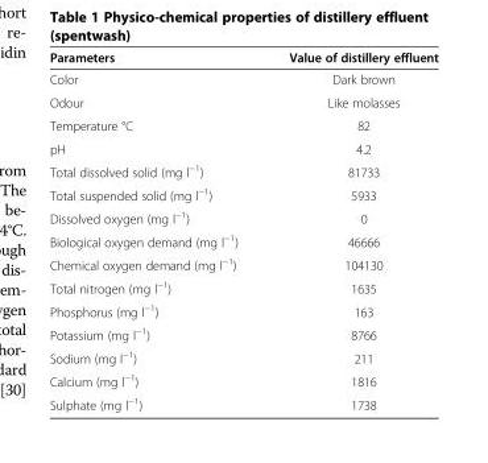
<table><thead><tr><td>Parameters</td><td>Value of distillery effluent</td></tr></thead><tbody><tr><td>Color</td><td>Dark brown</td></tr><tr><td>Odour</td><td>Like molasses</td></tr><tr><td>Temperature °C</td><td>82</td></tr><tr><td>pH</td><td>4.2</td></tr><tr><td>Total dissolved solid (mg l<sup>−1</sup>)</td><td>81733</td></tr><tr><td>Total suspended solid (mg l<sup>−1</sup>)</td><td>5933</td></tr><tr><td>Dissolved oxygen (mg l<sup>−1</sup>)</td><td>0</td></tr><tr><td>Biological oxygen demand (mg l<sup>−1</sup>)</td><td>46666</td></tr><tr><td>Chemical oxygen demand (mg l<sup>−1</sup>)</td><td>104130</td></tr><tr><td>Total nitrogen (mg l<sup>−1</sup>)</td><td>1635</td></tr><tr><td>Phosphorus (mg l<sup>−1</sup>)</td><td>163</td></tr><tr><td>Potassium (mg l<sup>−1</sup>)</td><td>8766</td></tr><tr><td>Sodium (mg l<sup>−1</sup>)</td><td>211</td></tr><tr><td>Calcium (mg l<sup>−1</sup>)</td><td>1816</td></tr><tr><td>Sulphate (mg l<sup>−1</sup>)</td><td>1738</td></tr></tbody></table>